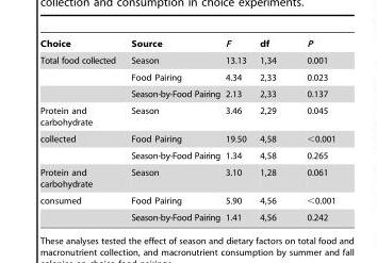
<table><thead><tr><td>Choice</td><td>Source</td><td>F</td><td>df</td><td>P</td></tr></thead><tbody><tr><td rowspan="3">Total food collected</td><td>Season</td><td>13.13</td><td>1,34</td><td>0.001</td></tr><tr><td>Food Pairing</td><td>4.34</td><td>2,33</td><td>0.023</td></tr><tr><td>Season-by-Food Pairing</td><td>2.13</td><td>2,33</td><td>0.137</td></tr><tr><td>Protein and carbohydrate</td><td>Season</td><td>3.46</td><td>2,29</td><td>0.045</td></tr><tr><td rowspan="2">collected</td><td>Food Pairing</td><td>19.50</td><td>4,58</td><td>&lt;0.001</td></tr><tr><td>Season-by-Food Pairing</td><td>1.34</td><td>4,58</td><td>0.265</td></tr><tr><td>Protein and carbohydrate</td><td>Season</td><td>3.10</td><td>1,28</td><td>0.061</td></tr><tr><td rowspan="2">consumed</td><td>Food Pairing</td><td>5.90</td><td>4,56</td><td>&lt;0.001</td></tr><tr><td>Season-by-Food Pairing</td><td>1.41</td><td>4,56</td><td>0.242</td></tr></tbody></table>